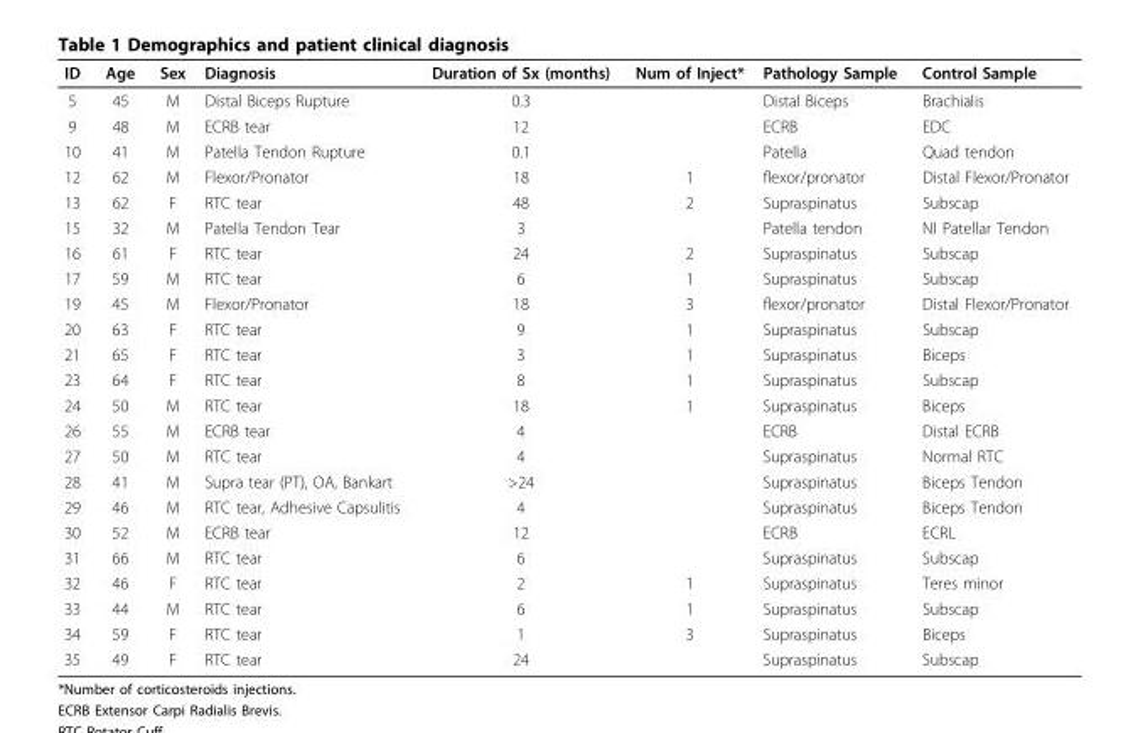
<table><thead><tr><td>ID</td><td>Age</td><td>Sex</td><td>Diagnosis</td><td>Duration of Sx (months)</td><td>Num of Inject*</td><td>Pathology Sample</td><td>Control Sample</td></tr></thead><tbody><tr><td>5</td><td>45</td><td>M</td><td>Distal Biceps Rupture</td><td>0.3</td><td></td><td>Distal Biceps</td><td>Brachialis</td></tr><tr><td>9</td><td>48</td><td>M</td><td>ECRB tear</td><td>12</td><td></td><td>ECRB</td><td>EDC</td></tr><tr><td>10</td><td>41</td><td>M</td><td>Patella Tendon Rupture</td><td>0.1</td><td></td><td>Patella</td><td>Quad tendon</td></tr><tr><td>12</td><td>62</td><td>M</td><td>Flexor/Pronator</td><td>18</td><td>1</td><td>flexor/pronator</td><td>Distal Flexor/Pronator</td></tr><tr><td>13</td><td>62</td><td>F</td><td>RTC tear</td><td>48</td><td>2</td><td>Supraspinatus</td><td>Subscap</td></tr><tr><td>15</td><td>32</td><td>M</td><td>Patella Tendon Tear</td><td>3</td><td></td><td>Patella tendon</td><td>Nl Patellar Tendon</td></tr><tr><td>16</td><td>61</td><td>F</td><td>RTC tear</td><td>24</td><td>2</td><td>Supraspinatus</td><td>Subscap</td></tr><tr><td>17</td><td>59</td><td>M</td><td>RTC tear</td><td>6</td><td>1</td><td>Supraspinatus</td><td>Subscap</td></tr><tr><td>19</td><td>45</td><td>M</td><td>Flexor/Pronator</td><td>18</td><td>3</td><td>flexor/pronator</td><td>Distal Flexor/Pronator</td></tr><tr><td>20</td><td>63</td><td>F</td><td>RTC tear</td><td>9</td><td>1</td><td>Supraspinatus</td><td>Subscap</td></tr><tr><td>21</td><td>65</td><td>F</td><td>RTC tear</td><td>3</td><td>1</td><td>Supraspinatus</td><td>Biceps</td></tr><tr><td>23</td><td>64</td><td>F</td><td>RTC tear</td><td>8</td><td>1</td><td>Supraspinatus</td><td>Subscap</td></tr><tr><td>24</td><td>50</td><td>M</td><td>RTC tear</td><td>18</td><td>1</td><td>Supraspinatus</td><td>Biceps</td></tr><tr><td>26</td><td>55</td><td>M</td><td>ECRB tear</td><td>4</td><td></td><td>ECRB</td><td>Distal ECRB</td></tr><tr><td>27</td><td>50</td><td>M</td><td>RTC tear</td><td>4</td><td></td><td>Supraspinatus</td><td>Normal RTC</td></tr><tr><td>28</td><td>41</td><td>M</td><td>Supra tear (PT), OA, Bankart</td><td>&gt;24</td><td></td><td>Supraspinatus</td><td>Biceps Tendon</td></tr><tr><td>29</td><td>46</td><td>M</td><td>RTC tear, Adhesive Capsulitis</td><td>4</td><td></td><td>Supraspinatus</td><td>Biceps Tendon</td></tr><tr><td>30</td><td>52</td><td>M</td><td>ECRB tear</td><td>12</td><td></td><td>ECRB</td><td>ECRL</td></tr><tr><td>31</td><td>66</td><td>M</td><td>RTC tear</td><td>6</td><td></td><td>Supraspinatus</td><td>Subscap</td></tr><tr><td>32</td><td>46</td><td>F</td><td>RTC tear</td><td>2</td><td>1</td><td>Supraspinatus</td><td>Teres minor</td></tr><tr><td>33</td><td>44</td><td>M</td><td>RTC tear</td><td>6</td><td>1</td><td>Supraspinatus</td><td>Subscap</td></tr><tr><td>34</td><td>59</td><td>F</td><td>RTC tear</td><td>1</td><td>3</td><td>Supraspinatus</td><td>Biceps</td></tr><tr><td>35</td><td>49</td><td>F</td><td>RTC tear</td><td>24</td><td></td><td>Supraspinatus</td><td>Subscap</td></tr></tbody></table>